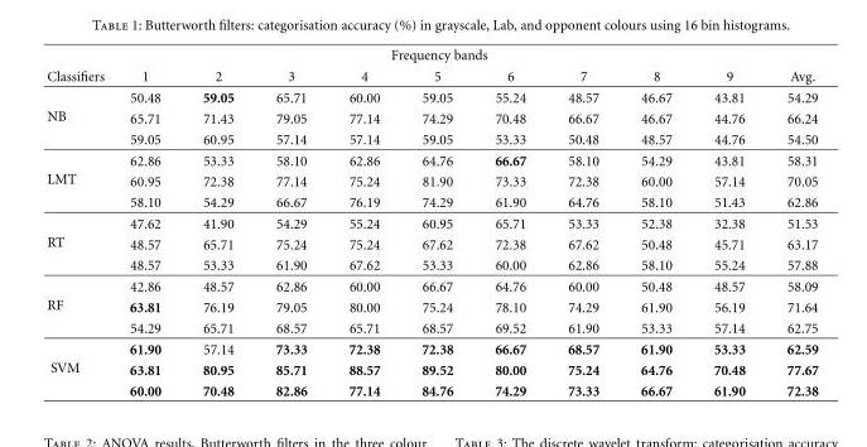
<table><thead><tr><td rowspan="2">Classifiers</td><td colspan="9">Frequency bands</td><td rowspan="2">Avg.</td></tr><tr><td>1</td><td>2</td><td>3</td><td>4</td><td>5</td><td>6</td><td>7</td><td>8</td><td>9</td></tr></thead><tbody><tr><td rowspan="3">NB</td><td>50.48</td><td>59.05</td><td>65.71</td><td>60.00</td><td>59.05</td><td>55.24</td><td>48.57</td><td>46.67</td><td>43.81</td><td>54.29</td></tr><tr><td>65.71</td><td>71.43</td><td>79.05</td><td>77.14</td><td>74.29</td><td>70.48</td><td>66.67</td><td>46.67</td><td>44.76</td><td>66.24</td></tr><tr><td>59.05</td><td>60.95</td><td>57.14</td><td>57.14</td><td>59.05</td><td>53.33</td><td>50.48</td><td>48.57</td><td>44.76</td><td>54.50</td></tr><tr><td rowspan="3">LMT</td><td>62.86</td><td>53.33</td><td>58.10</td><td>62.86</td><td>64.76</td><td>66.67</td><td>58.10</td><td>54.29</td><td>43.81</td><td>58.31</td></tr><tr><td>60.95</td><td>72.38</td><td>77.14</td><td>75.24</td><td>81.90</td><td>73.33</td><td>72.38</td><td>60.00</td><td>57.14</td><td>70.05</td></tr><tr><td>58.10</td><td>54.29</td><td>66.67</td><td>76.19</td><td>74.29</td><td>61.90</td><td>64.76</td><td>58.10</td><td>51.43</td><td>62.86</td></tr><tr><td rowspan="3">RT</td><td>47.62</td><td>41.90</td><td>54.29</td><td>55.24</td><td>60.95</td><td>65.71</td><td>53.33</td><td>52.38</td><td>32.38</td><td>51.53</td></tr><tr><td>48.57</td><td>65.71</td><td>75.24</td><td>75.24</td><td>67.62</td><td>72.38</td><td>67.62</td><td>50.48</td><td>45.71</td><td>63.17</td></tr><tr><td>48.57</td><td>53.33</td><td>61.90</td><td>67.62</td><td>53.33</td><td>60.00</td><td>62.86</td><td>58.10</td><td>55.24</td><td>57.88</td></tr><tr><td rowspan="3">RF</td><td>42.86</td><td>48.57</td><td>62.86</td><td>60.00</td><td>66.67</td><td>64.76</td><td>60.00</td><td>50.48</td><td>48.57</td><td>58.09</td></tr><tr><td>63.81</td><td>76.19</td><td>79.05</td><td>80.00</td><td>75.24</td><td>78.10</td><td>74.29</td><td>61.90</td><td>56.19</td><td>71.64</td></tr><tr><td>54.29</td><td>65.71</td><td>68.57</td><td>65.71</td><td>68.57</td><td>69.52</td><td>61.90</td><td>53.33</td><td>57.14</td><td>62.75</td></tr><tr><td rowspan="3">SVM</td><td>61.90</td><td>57.14</td><td>73.33</td><td>72.38</td><td>72.38</td><td>66.67</td><td>68.57</td><td>61.90</td><td>53.33</td><td>62.59</td></tr><tr><td>63.81</td><td>80.95</td><td>85.71</td><td>88.57</td><td>89.52</td><td>80.00</td><td>75.24</td><td>64.76</td><td>70.48</td><td>77.67</td></tr><tr><td>60.00</td><td>70.48</td><td>82.86</td><td>77.14</td><td>84.76</td><td>74.29</td><td>73.33</td><td>66.67</td><td>61.90</td><td>72.38</td></tr></tbody></table>